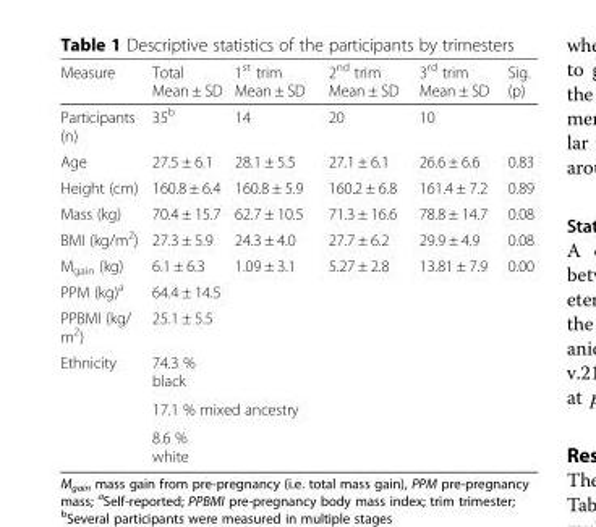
<table><thead><tr><td>Measure</td><td>Total Mean ± SD</td><td>1<sup>st</sup> trim Mean ± SD</td><td>2<sup>nd</sup> trim Mean ± SD</td><td>3<sup>rd</sup> trim Mean ± SD</td><td>Sig. (p)</td></tr></thead><tbody><tr><td>Participants (n)</td><td>35<sup>b</sup></td><td>14</td><td>20</td><td>10</td><td></td></tr><tr><td>Age</td><td>27.5 ± 6.1</td><td>28.1 ± 5.5</td><td>27.1 ± 6.1</td><td>26.6 ± 6.6</td><td>0.83</td></tr><tr><td>Height (cm)</td><td>160.8 ± 6.4</td><td>160.8 ± 5.9</td><td>160.2 ± 6.8</td><td>161.4 ± 7.2</td><td>0.89</td></tr><tr><td>Mass (kg)</td><td>70.4 ± 15.7</td><td>62.7 ± 10.5</td><td>71.3 ± 16.6</td><td>78.8 ± 14.7</td><td>0.08</td></tr><tr><td>BMI (kg/m<sup>2</sup>)</td><td>27.3 ± 5.9</td><td>24.3 ± 4.0</td><td>27.7 ± 6.2</td><td>29.9 ± 4.9</td><td>0.08</td></tr><tr><td>M<sub>gain</sub> (kg)</td><td>6.1 ± 6.3</td><td>1.09 ± 3.1</td><td>5.27 ± 2.8</td><td>13.81 ± 7.9</td><td>0.00</td></tr><tr><td>PPM (kg)<sup>a</sup></td><td>64.4 ± 14.5</td><td></td><td></td><td></td><td></td></tr><tr><td>PPBMI (kg/ m<sup>2</sup>)</td><td>25.1 ± 5.5</td><td></td><td></td><td></td><td></td></tr><tr><td rowspan="3">Ethnicity</td><td>74.3 % black</td><td></td><td></td><td></td><td></td></tr><tr><td colspan="2">17.1 % mixed ancestry</td><td></td><td></td><td></td></tr><tr><td>8.6 % white</td><td></td><td></td><td></td><td></td></tr></tbody></table>